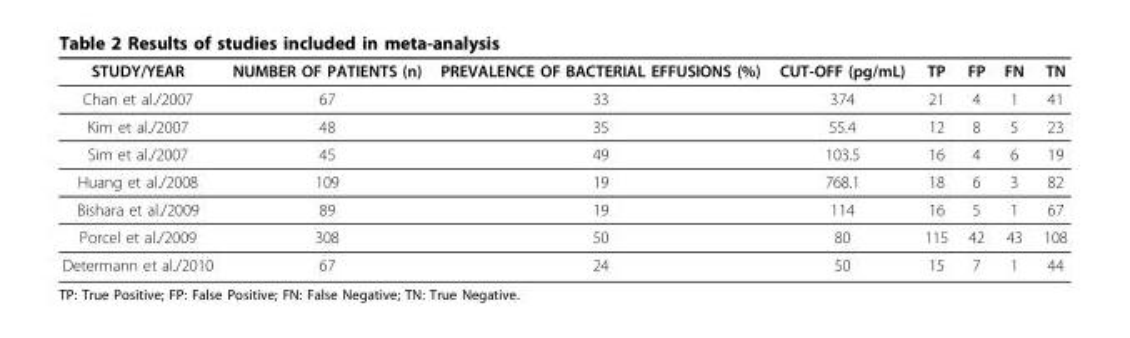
<table><thead><tr><td>STUDY/YEAR</td><td>NUMBER OF PATIENTS (n)</td><td>PREVALENCE OF BACTERIAL EFFUSIONS (%)</td><td>CUT-OFF (pg/mL)</td><td>TP</td><td>FP</td><td>FN</td><td>TN</td></tr></thead><tbody><tr><td>Chan et al./2007</td><td>67</td><td>33</td><td>374</td><td>21</td><td>4</td><td>1</td><td>41</td></tr><tr><td>Kim et al./2007</td><td>48</td><td>35</td><td>55.4</td><td>12</td><td>8</td><td>5</td><td>23</td></tr><tr><td>Sim et al./2007</td><td>45</td><td>49</td><td>103.5</td><td>16</td><td>4</td><td>6</td><td>19</td></tr><tr><td>Huang et al./2008</td><td>109</td><td>19</td><td>768.1</td><td>18</td><td>6</td><td>3</td><td>82</td></tr><tr><td>Bishara et al./2009</td><td>89</td><td>19</td><td>114</td><td>16</td><td>5</td><td>1</td><td>67</td></tr><tr><td>Porcel et al./2009</td><td>308</td><td>50</td><td>80</td><td>115</td><td>42</td><td>43</td><td>108</td></tr><tr><td>Determann et al./2010</td><td>67</td><td>24</td><td>50</td><td>15</td><td>7</td><td>1</td><td>44</td></tr></tbody></table>